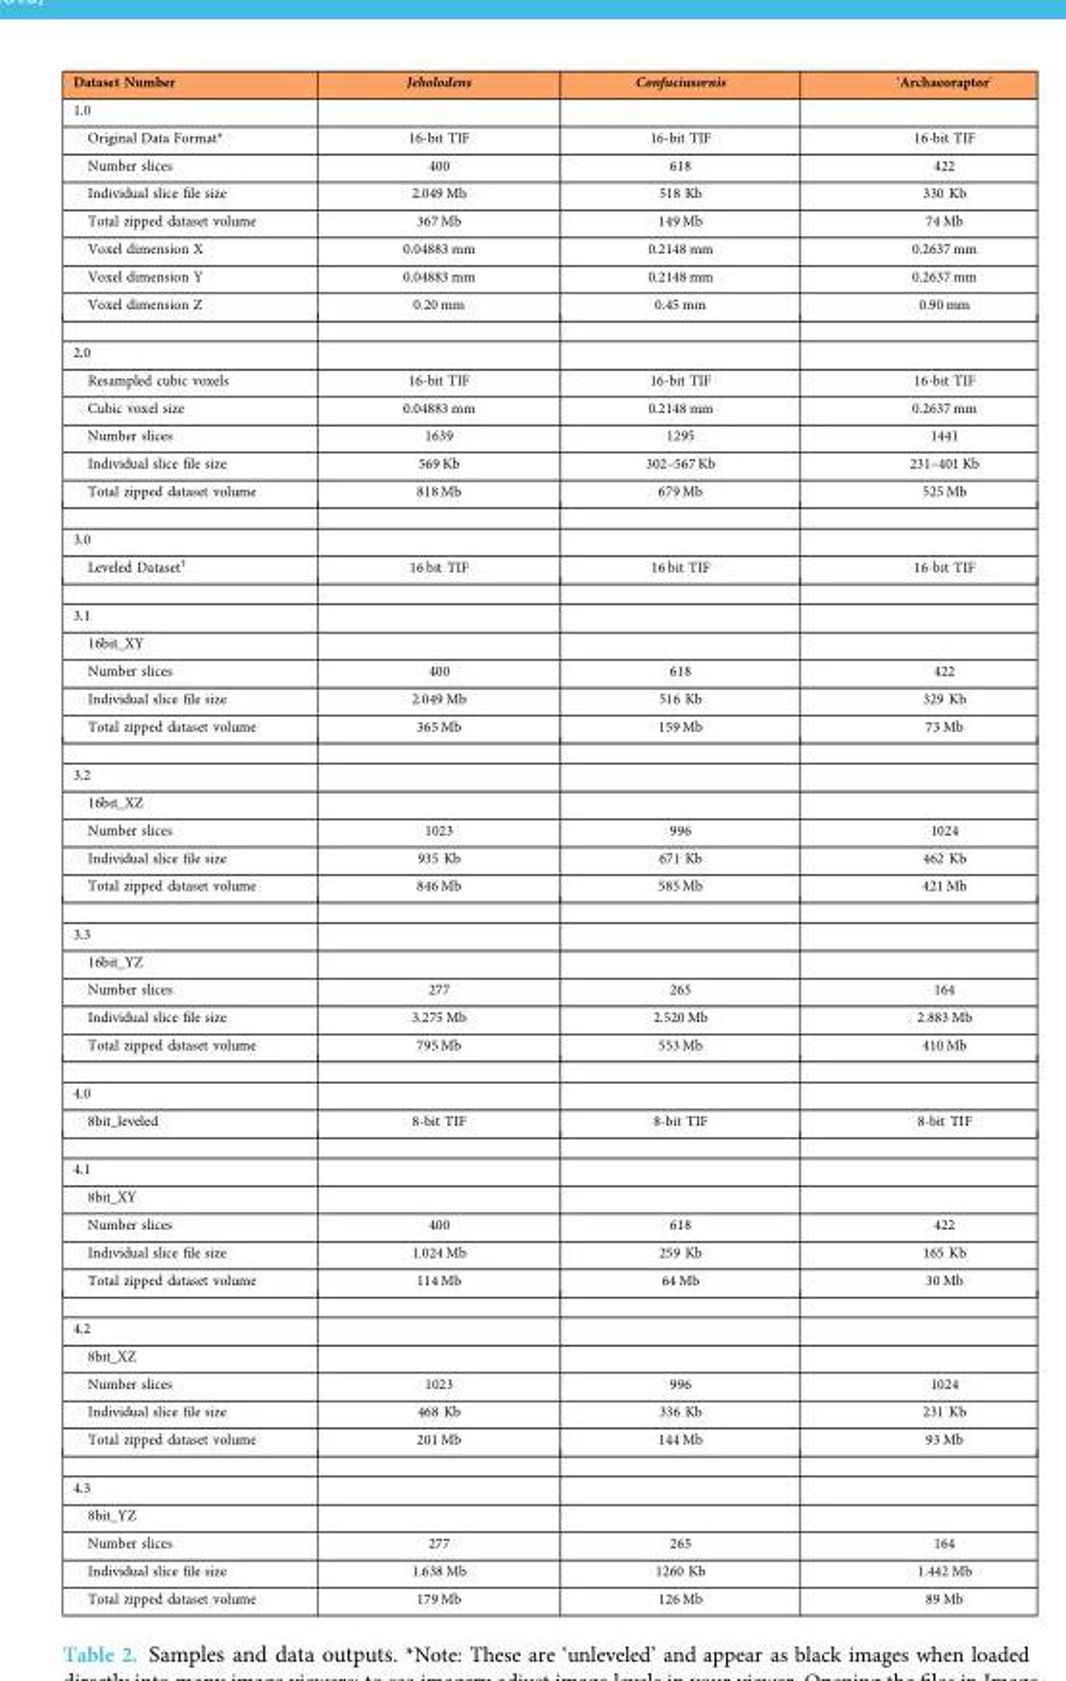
<table><thead><tr><td>Dataset Number</td><td>Jeholodens</td><td>Confuciusornis</td><td>‘Archaeoraptor’</td></tr></thead><tbody><tr><td colspan="4">1.0</td></tr><tr><td>Original Data Format*</td><td>16-bit TIF</td><td>16-bit TIF</td><td>16-bit TIF</td></tr><tr><td>Number slices</td><td>400</td><td>618</td><td>422</td></tr><tr><td>Individual slice file size</td><td>2.049 Mb</td><td>518 Kb</td><td>330 Kb</td></tr><tr><td>Total zipped dataset volume</td><td>367 Mb</td><td>149 Mb</td><td>74 Mb</td></tr><tr><td>Voxel dimension X</td><td>0.04883 mm</td><td>0.2148 mm</td><td>0.2637 mm</td></tr><tr><td>Voxel dimension Y</td><td>0.04883 mm</td><td>0.2148 mm</td><td>0.2637 mm</td></tr><tr><td>Voxel dimension Z</td><td>0.20 mm</td><td>0.45 mm</td><td>0.90 mm</td></tr><tr><td colspan="4">2.0</td></tr><tr><td>Resampled cubic voxels</td><td>16-bit TIF</td><td>16-bit TIF</td><td>16-bit TIF</td></tr><tr><td>Cubic voxel size</td><td>0.04883 mm</td><td>0.2148 mm</td><td>0.2637 mm</td></tr><tr><td>Number slices</td><td>1639</td><td>1295</td><td>1441</td></tr><tr><td>Individual slice file size</td><td>569 Kb</td><td>302–567 Kb</td><td>231–401 Kb</td></tr><tr><td>Total zipped dataset volume</td><td>818 Mb</td><td>679 Mb</td><td>525 Mb</td></tr><tr><td colspan="4">3.0</td></tr><tr><td>Leveled Dataset†</td><td>16 bit TIF</td><td>16 bit TIF</td><td>16-bit TIF</td></tr><tr><td colspan="4">3.1</td></tr><tr><td colspan="4">16bit_XY</td></tr><tr><td>Number slices</td><td>400</td><td>618</td><td>422</td></tr><tr><td>Individual slice file size</td><td>2.049 Mb</td><td>516 Kb</td><td>329 Kb</td></tr><tr><td>Total zipped dataset volume</td><td>365 Mb</td><td>159 Mb</td><td>73 Mb</td></tr><tr><td colspan="4">3.2</td></tr><tr><td colspan="4">16bit_XZ</td></tr><tr><td>Number slices</td><td>1023</td><td>996</td><td>1024</td></tr><tr><td>Individual slice file size</td><td>935 Kb</td><td>671 Kb</td><td>462 Kb</td></tr><tr><td>Total zipped dataset volume</td><td>846 Mb</td><td>585 Mb</td><td>421 Mb</td></tr><tr><td colspan="4">3.3</td></tr><tr><td colspan="4">16bit_YZ</td></tr><tr><td>Number slices</td><td>277</td><td>265</td><td>164</td></tr><tr><td>Individual slice file size</td><td>3.275 Mb</td><td>2.520 Mb</td><td>2.883 Mb</td></tr><tr><td>Total zipped dataset volume</td><td>795 Mb</td><td>553 Mb</td><td>410 Mb</td></tr><tr><td colspan="4">4.0</td></tr><tr><td>8bit_leveled</td><td>8-bit TIF</td><td>8-bit TIF</td><td>8-bit TIF</td></tr><tr><td colspan="4">4.1</td></tr><tr><td colspan="4">8bit_XY</td></tr><tr><td>Number slices</td><td>400</td><td>618</td><td>422</td></tr><tr><td>Individual slice file size</td><td>1.024 Mb</td><td>259 Kb</td><td>165 Kb</td></tr><tr><td>Total zipped dataset volume</td><td>114 Mb</td><td>64 Mb</td><td>30 Mb</td></tr><tr><td colspan="4">4.2</td></tr><tr><td colspan="4">8bit_XZ</td></tr><tr><td>Number slices</td><td>1023</td><td>996</td><td>1024</td></tr><tr><td>Individual slice file size</td><td>468 Kb</td><td>336 Kb</td><td>231 Kb</td></tr><tr><td>Total zipped dataset volume</td><td>201 Mb</td><td>144 Mb</td><td>93 Mb</td></tr><tr><td colspan="4">4.3</td></tr><tr><td colspan="4">8bit_YZ</td></tr><tr><td>Number slices</td><td>277</td><td>265</td><td>164</td></tr><tr><td>Individual slice file size</td><td>1.638 Mb</td><td>1260 Kb</td><td>1.442 Mb</td></tr><tr><td>Total zipped dataset volume</td><td>179 Mb</td><td>126 Mb</td><td>89 Mb</td></tr></tbody></table>